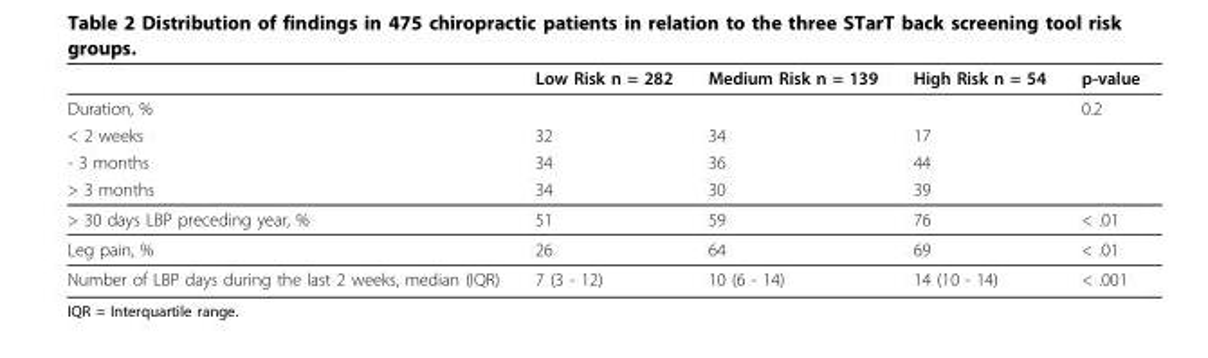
<table><thead><tr><td></td><td>Low Risk n = 282</td><td>Medium Risk n = 139</td><td>High Risk n = 54</td><td>p-value</td></tr></thead><tbody><tr><td>Duration, %</td><td></td><td></td><td></td><td>0.2</td></tr><tr><td>&lt; 2 weeks</td><td>32</td><td>34</td><td>17</td><td></td></tr><tr><td>- 3 months</td><td>34</td><td>36</td><td>44</td><td></td></tr><tr><td>&gt; 3 months</td><td>34</td><td>30</td><td>39</td><td></td></tr><tr><td>&gt; 30 days LBP preceding year, %</td><td>51</td><td>59</td><td>76</td><td>&lt; .01</td></tr><tr><td>Leg pain, %</td><td>26</td><td>64</td><td>69</td><td>&lt; .01</td></tr><tr><td>Number of LBP days during the last 2 weeks, median (IQR)</td><td>7 (3 - 12)</td><td>10 (6 - 14)</td><td>14 (10 - 14)</td><td>&lt; .001</td></tr></tbody></table>